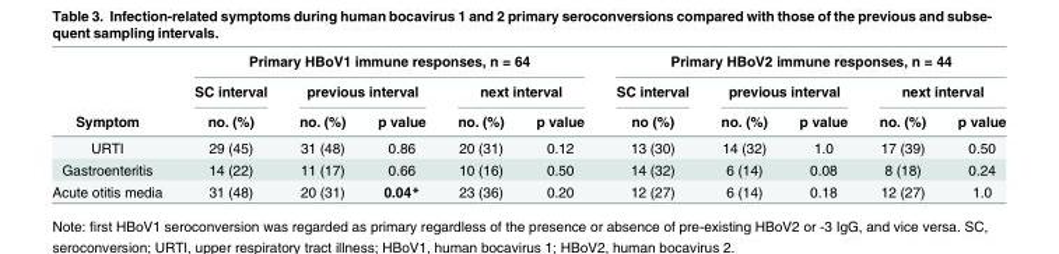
<table><thead><tr><td rowspan="3">Symptom</td><td colspan="5">Primary HBoV1 immune responses, n = 64</td><td colspan="5">Primary HBoV2 immune responses, n = 44</td></tr><tr><td rowspan="2">SC interval no. (%)</td><td colspan="2">previous interval</td><td colspan="2">next interval</td><td rowspan="2">SC interval no (%)</td><td colspan="2">previous interval</td><td colspan="2">next interval</td></tr><tr><td>no. (%)</td><td>p value</td><td>no. (%)</td><td>p value</td><td>no. (%)</td><td>p value</td><td>no. (%)</td><td>p value</td></tr></thead><tbody><tr><td>URTI</td><td>29 (45)</td><td>31 (48)</td><td>0.86</td><td>20 (31)</td><td>0.12</td><td>13 (30)</td><td>14 (32)</td><td>1.0</td><td>17 (39)</td><td>0.50</td></tr><tr><td>Gastroenteritis</td><td>14 (22)</td><td>11 (17)</td><td>0.66</td><td>10 (16)</td><td>0.50</td><td>14 (32)</td><td>6 (14)</td><td>0.08</td><td>8 (18)</td><td>0.24</td></tr><tr><td>Acute otitis media</td><td>31 (48)</td><td>20 (31)</td><td>0.04*</td><td>23 (36)</td><td>0.20</td><td>12 (27)</td><td>6 (14)</td><td>0.18</td><td>12 (27)</td><td>1.0</td></tr></tbody></table>